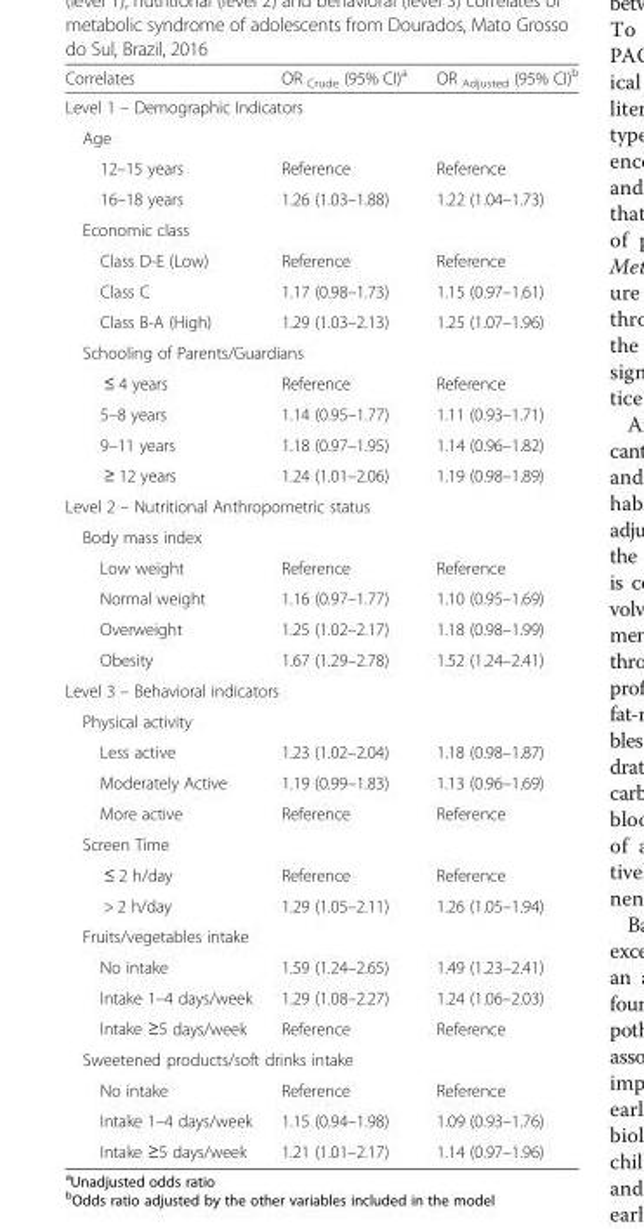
<table><thead><tr><td>Correlates</td><td>OR <sub>Crude</sub> (95% CI)<sup>a</sup></td><td>OR <sub>Adjusted</sub> (95% CI)<sup>b</sup></td></tr></thead><tbody><tr><td colspan="3">Level 1 – Demographic Indicators</td></tr><tr><td colspan="3">Age</td></tr><tr><td>12–15 years</td><td>Reference</td><td>Reference</td></tr><tr><td>16–18 years</td><td>1.26 (1.03–1.88)</td><td>1.22 (1.04–1.73)</td></tr><tr><td colspan="3">Economic class</td></tr><tr><td>Class D-E (Low)</td><td>Reference</td><td>Reference</td></tr><tr><td>Class C</td><td>1.17 (0.98–1.73)</td><td>1.15 (0.97–1.61)</td></tr><tr><td>Class B-A (High)</td><td>1.29 (1.03–2.13)</td><td>1.25 (1.07–1.96)</td></tr><tr><td colspan="3">Schooling of Parents/Guardians</td></tr><tr><td>≤ 4 years</td><td>Reference</td><td>Reference</td></tr><tr><td>5–8 years</td><td>1.14 (0.95–1.77)</td><td>1.11 (0.93–1.71)</td></tr><tr><td>9–11 years</td><td>1.18 (0.97–1.95)</td><td>1.14 (0.96–1.82)</td></tr><tr><td>≥ 12 years</td><td>1.24 (1.01–2.06)</td><td>1.19 (0.98–1.89)</td></tr><tr><td colspan="3">Level 2 – Nutritional Anthropometric status</td></tr><tr><td colspan="3">Body mass index</td></tr><tr><td>Low weight</td><td>Reference</td><td>Reference</td></tr><tr><td>Normal weight</td><td>1.16 (0.97–1.77)</td><td>1.10 (0.95–1.69)</td></tr><tr><td>Overweight</td><td>1.25 (1.02–2.17)</td><td>1.18 (0.98–1.99)</td></tr><tr><td>Obesity</td><td>1.67 (1.29–2.78)</td><td>1.52 (1.24–2.41)</td></tr><tr><td colspan="3">Level 3 – Behavioral indicators</td></tr><tr><td colspan="3">Physical activity</td></tr><tr><td>Less active</td><td>1.23 (1.02–2.04)</td><td>1.18 (0.98–1.87)</td></tr><tr><td>Moderately Active</td><td>1.19 (0.99–1.83)</td><td>1.13 (0.96–1.69)</td></tr><tr><td>More active</td><td>Reference</td><td>Reference</td></tr><tr><td colspan="3">Screen Time</td></tr><tr><td>≤ 2 h/day</td><td>Reference</td><td>Reference</td></tr><tr><td>&gt; 2 h/day</td><td>1.29 (1.05–2.11)</td><td>1.26 (1.05–1.94)</td></tr><tr><td colspan="3">Fruits/vegetables intake</td></tr><tr><td>No intake</td><td>1.59 (1.24–2.65)</td><td>1.49 (1.23–2.41)</td></tr><tr><td>Intake 1–4 days/week</td><td>1.29 (1.08–2.27)</td><td>1.24 (1.06–2.03)</td></tr><tr><td>Intake ≥5 days/week</td><td>Reference</td><td>Reference</td></tr><tr><td colspan="3">Sweetened products/soft drinks intake</td></tr><tr><td>No intake</td><td>Reference</td><td>Reference</td></tr><tr><td>Intake 1–4 days/week</td><td>1.15 (0.94–1.98)</td><td>1.09 (0.93–1.76)</td></tr><tr><td>Intake ≥5 days/week</td><td>1.21 (1.01–2.17)</td><td>1.14 (0.97–1.96)</td></tr></tbody></table>